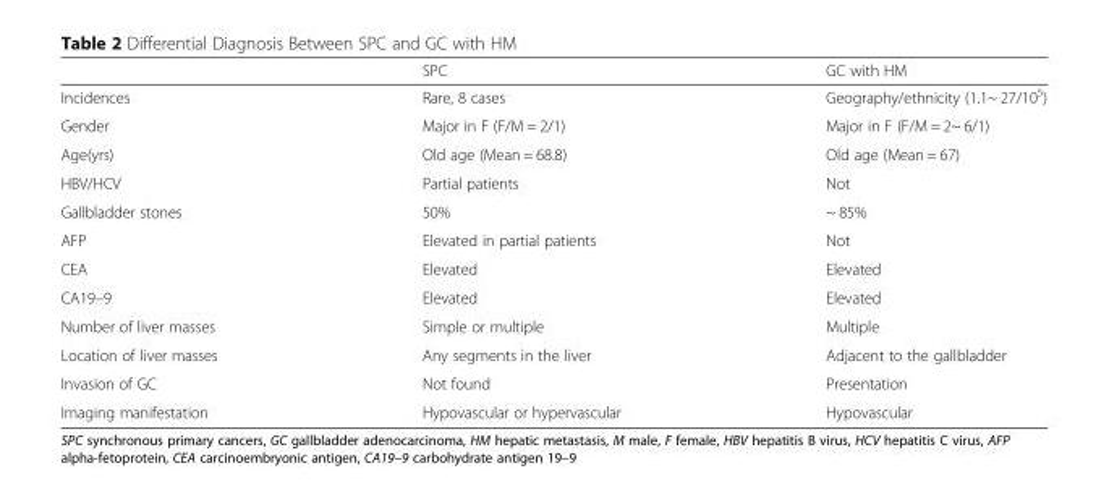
<table><thead><tr><td></td><td>SPC</td><td>GC with HM</td></tr></thead><tbody><tr><td>Incidences</td><td>Rare, 8 cases</td><td>Geography/ethnicity (1.1~ 27/10<sup>5</sup>)</td></tr><tr><td>Gender</td><td>Major in F (F/M = 2/1)</td><td>Major in F (F/M = 2~ 6/1)</td></tr><tr><td>Age(yrs)</td><td>Old age (Mean = 68.8)</td><td>Old age (Mean = 67)</td></tr><tr><td>HBV/HCV</td><td>Partial patients</td><td>Not</td></tr><tr><td>Gallbladder stones</td><td>50%</td><td>~ 85%</td></tr><tr><td>AFP</td><td>Elevated in partial patients</td><td>Not</td></tr><tr><td>CEA</td><td>Elevated</td><td>Elevated</td></tr><tr><td>CA19–9</td><td>Elevated</td><td>Elevated</td></tr><tr><td>Number of liver masses</td><td>Simple or multiple</td><td>Multiple</td></tr><tr><td>Location of liver masses</td><td>Any segments in the liver</td><td>Adjacent to the gallbladder</td></tr><tr><td>Invasion of GC</td><td>Not found</td><td>Presentation</td></tr><tr><td>Imaging manifestation</td><td>Hypovascular or hypervascular</td><td>Hypovascular</td></tr></tbody></table>